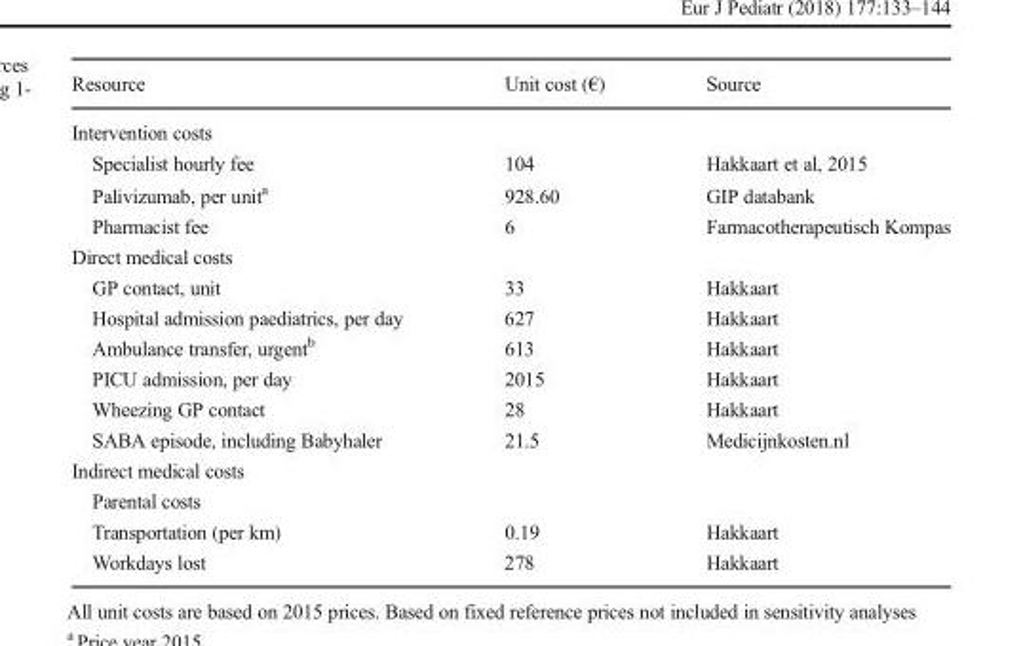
<table><thead><tr><td>Resource</td><td>Unit cost (€)</td><td>Source</td></tr></thead><tbody><tr><td colspan="3">Intervention costs</td></tr><tr><td>Specialist hourly fee</td><td>104</td><td>Hakkaart et al, 2015</td></tr><tr><td>Palivizumab, per unit<sup>a</sup></td><td>928.60</td><td>GIP databank</td></tr><tr><td>Pharmacist fee</td><td>6</td><td>Farmacotherapeutisch Kompas</td></tr><tr><td colspan="3">Direct medical costs</td></tr><tr><td>GP contact, unit</td><td>33</td><td>Hakkaart</td></tr><tr><td>Hospital admission paediatrics, per day</td><td>627</td><td>Hakkaart</td></tr><tr><td>Ambulance transfer, urgent<sup>b</sup></td><td>613</td><td>Hakkaart</td></tr><tr><td>PICU admission, per day</td><td>2015</td><td>Hakkaart</td></tr><tr><td>Wheezing GP contact</td><td>28</td><td>Hakkaart</td></tr><tr><td>SABA episode, including Babyhaler</td><td>21.5</td><td>Medicijnkosten.nl</td></tr><tr><td colspan="3">Indirect medical costs</td></tr><tr><td colspan="3">Parental costs</td></tr><tr><td>Transportation (per km)</td><td>0.19</td><td>Hakkaart</td></tr><tr><td>Workdays lost</td><td>278</td><td>Hakkaart</td></tr></tbody></table>